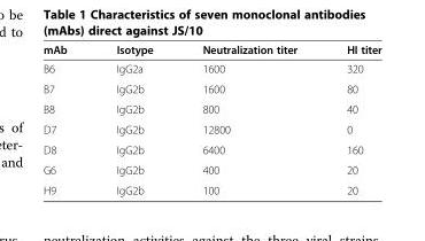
<table><thead><tr><td>mAb</td><td>Isotype</td><td>Neutralization titer</td><td>HI titer</td></tr></thead><tbody><tr><td>B6</td><td>IgG2a</td><td>1600</td><td>320</td></tr><tr><td>B7</td><td>IgG2b</td><td>1600</td><td>80</td></tr><tr><td>B8</td><td>IgG2b</td><td>800</td><td>40</td></tr><tr><td>D7</td><td>IgG2b</td><td>12800</td><td>0</td></tr><tr><td>D8</td><td>IgG2b</td><td>6400</td><td>160</td></tr><tr><td>G6</td><td>IgG2b</td><td>400</td><td>20</td></tr><tr><td>H9</td><td>IgG2b</td><td>100</td><td>20</td></tr></tbody></table>